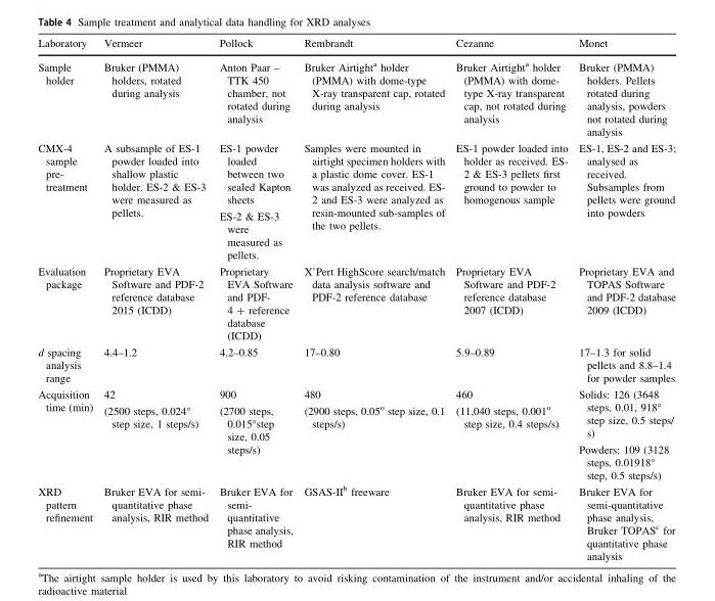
<table><thead><tr><td>Laboratory</td><td>Vermeer</td><td>Pollock</td><td>Rembrandt</td><td>Cezanne</td><td>Monet</td></tr></thead><tbody><tr><td>Sample holder</td><td>Bruker (PMMA) holders, rotated during analysis</td><td>Anton Paar – TTK 450 chamber, not rotated during analysis</td><td>Bruker Airtight<sup>a</sup> holder (PMMA) with dome-type X-ray transparent cap, rotated during analysis</td><td>Bruker Airtight<sup>a</sup> holder (PMMA) with dome- type X-ray transparent cap, not rotated during analysis</td><td>Bruker (PMMA) holders. Pellets rotated during analysis, powders not rotated during analysis</td></tr><tr><td>CMX-4 sample pre- treatment</td><td>A subsample of ES-1 powder loaded into shallow plastic holder. ES-2 &amp; ES-3 were measured as pellets.</td><td>ES-1 powder loaded between two sealed Kapton sheets ES-2 &amp; ES-3 were measured as pellets.</td><td>Samples were mounted in airtight specimen holders with a plastic dome cover. ES-1 was analyzed as received. ES- 2 and ES-3 were analyzed as resin-mounted sub-samples of the two pellets.</td><td>ES-1 powder loaded into holder as received. ES- 2 &amp; ES-3 pellets first ground to powder to homogenous sample</td><td>ES-1, ES-2 and ES-3; analysed as received. Subsamples from pellets were ground into powders</td></tr><tr><td>Evaluation package</td><td>Proprietary EVA Software and PDF-2 reference database 2015 (ICDD)</td><td>Proprietary EVA Software and PDF- 4 + reference database (ICDD)</td><td>X’Pert HighScore search/match data analysis software and PDF-2 reference database</td><td>Proprietary EVA Software and PDF-2 reference database 2007 (ICDD)</td><td>Proprietary EVA and TOPAS Software and PDF-2 database 2009 (ICDD)</td></tr><tr><td>d spacing analysis range</td><td>4.4–1.2</td><td>4.2–0.85</td><td>17–0.80</td><td>5.9–0.89</td><td>17–1.3 for solid pellets and 8.8–1.4 for powder samples</td></tr><tr><td>Acquisition time (min)</td><td>42 (2500 steps, 0.024° step size, 1 steps/s)</td><td>900 (2700 steps, 0.015°step size, 0.05 steps/s)</td><td>480 (2900 steps, 0.05<sup>o</sup> step size, 0.1 steps/s)</td><td>460 (11,040 steps, 0.001<sup>o</sup> step size, 0.4 steps/s)</td><td>Solids: 126 (3648 steps, 0.01, 918° step size, 0.5 steps/ s) Powders: 109 (3128 steps, 0.01918° step, 0.5 steps/s)</td></tr><tr><td>XRD pattern refinement</td><td>Bruker EVA for semi- quantitative phase analysis, RIR method</td><td>Bruker EVA for semi- quantitative phase analysis, RIR method</td><td>GSAS-II<sup>b</sup> freeware</td><td>Bruker EVA for semi- quantitative phase analysis, RIR method</td><td>Bruker EVA for semi-quantitative phase analysis, Bruker TOPAS<sup>c</sup> for quantitative phase analysis</td></tr></tbody></table>